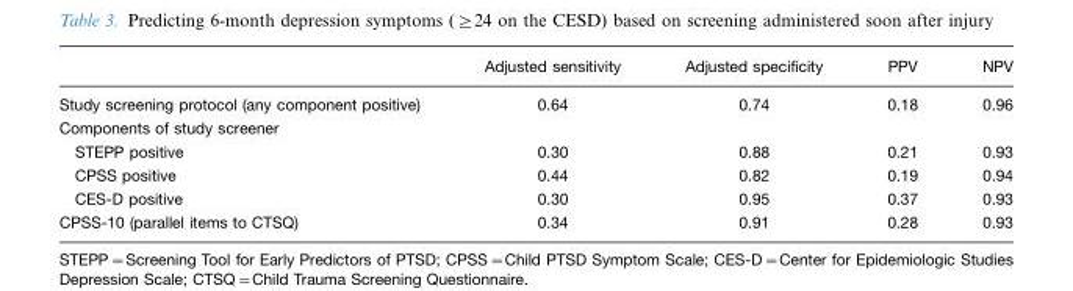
<table><thead><tr><td></td><td>Adjusted sensitivity</td><td>Adjusted specificity</td><td>PPV</td><td>NPV</td></tr></thead><tbody><tr><td>Study screening protocol (any component positive)</td><td>0.64</td><td>0.74</td><td>0.18</td><td>0.96</td></tr><tr><td colspan="5">Components of study screener</td></tr><tr><td>STEPP positive</td><td>0.30</td><td>0.88</td><td>0.21</td><td>0.93</td></tr><tr><td>CPSS positive</td><td>0.44</td><td>0.82</td><td>0.19</td><td>0.94</td></tr><tr><td>CES-D positive</td><td>0.30</td><td>0.95</td><td>0.37</td><td>0.93</td></tr><tr><td>CPSS-10 (parallel items to CTSQ)</td><td>0.34</td><td>0.91</td><td>0.28</td><td>0.93</td></tr></tbody></table>